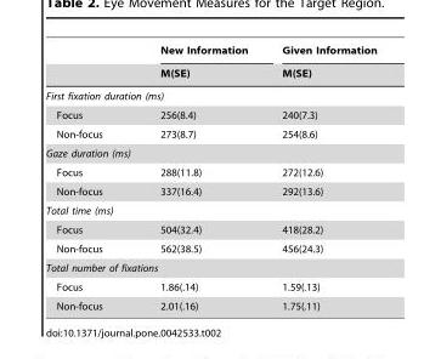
<table><thead><tr><td rowspan="2"></td><td rowspan="2">New Information M(SE)</td><td rowspan="2">Given Information M(SE)</td></tr><tr></tr></thead><tbody><tr><td colspan="3">First fixation duration (ms)</td></tr><tr><td>Focus</td><td>256(8.4)</td><td>240(7.3)</td></tr><tr><td>Non-focus</td><td>273(8.7)</td><td>254(8.6)</td></tr><tr><td colspan="3">Gaze duration (ms)</td></tr><tr><td>Focus</td><td>288(11.8)</td><td>272(12.6)</td></tr><tr><td>Non-focus</td><td>337(16.4)</td><td>292(13.6)</td></tr><tr><td colspan="3">Total time (ms)</td></tr><tr><td>Focus</td><td>504(32.4)</td><td>418(28.2)</td></tr><tr><td>Non-focus</td><td>562(38.5)</td><td>456(24.3)</td></tr><tr><td colspan="3">Total number of fixations</td></tr><tr><td>Focus</td><td>1.86(.14)</td><td>1.59(.13)</td></tr><tr><td>Non-focus</td><td>2.01(.16)</td><td>1.75(.11)</td></tr></tbody></table>